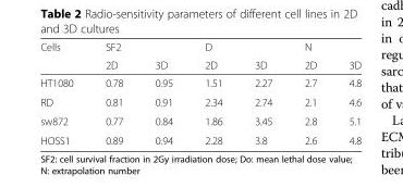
<table><thead><tr><td rowspan="2">Cells</td><td colspan="2">SF2</td><td colspan="2">D</td><td colspan="2">N</td></tr><tr><td>2D</td><td>3D</td><td>2D</td><td>3D</td><td>2D</td><td>3D</td></tr></thead><tbody><tr><td>HT1080</td><td>0.78</td><td>0.95</td><td>1.51</td><td>2.27</td><td>2.7</td><td>4.8</td></tr><tr><td>RD</td><td>0.81</td><td>0.91</td><td>2.34</td><td>2.74</td><td>2.1</td><td>4.6</td></tr><tr><td>sw872</td><td>0.77</td><td>0.84</td><td>1.86</td><td>3.45</td><td>2.8</td><td>5.1</td></tr><tr><td>HOSS1</td><td>0.89</td><td>0.94</td><td>2.28</td><td>3.8</td><td>2.6</td><td>4.8</td></tr></tbody></table>